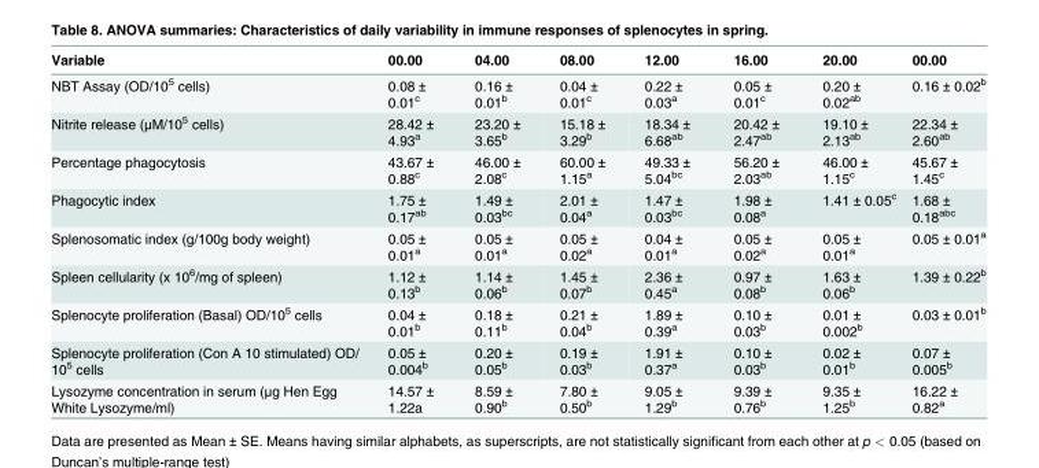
<table><thead><tr><td>Variable</td><td>00.00</td><td>04.00</td><td>08.00</td><td>12.00</td><td>16.00</td><td>20.00</td><td>00.00</td></tr></thead><tbody><tr><td>NBT Assay (OD/10<sup>5</sup> cells)</td><td>0.08 ± 0.01<sup>c</sup></td><td>0.16 ± 0.01<sup>b</sup></td><td>0.04 ± 0.01<sup>c</sup></td><td>0.22 ± 0.03<sup>a</sup></td><td>0.05 ± 0.01<sup>c</sup></td><td>0.20 ± 0.02<sup>ab</sup></td><td>0.16 ± 0.02<sup>b</sup></td></tr><tr><td>Nitrite release (μM/10<sup>5</sup> cells)</td><td>28.42 ± 4.93<sup>a</sup></td><td>23.20 ± 3.65<sup>b</sup></td><td>15.18 ± 3.29<sup>b</sup></td><td>18.34 ± 6.68<sup>ab</sup></td><td>20.42 ± 2.47<sup>ab</sup></td><td>19.10 ± 2.13<sup>ab</sup></td><td>22.34 ± 2.60<sup>ab</sup></td></tr><tr><td>Percentage phagocytosis</td><td>43.67 ± 0.88<sup>c</sup></td><td>46.00 ± 2.08<sup>c</sup></td><td>60.00 ± 1.15<sup>a</sup></td><td>49.33 ± 5.04<sup>bc</sup></td><td>56.20 ± 2.03<sup>ab</sup></td><td>46.00 ± 1.15<sup>c</sup></td><td>45.67 ± 1.45<sup>c</sup></td></tr><tr><td>Phagocytic index</td><td>1.75 ± 0.17<sup>ab</sup></td><td>1.49 ± 0.03<sup>bc</sup></td><td>2.01 ± 0.04<sup>a</sup></td><td>1.47 ± 0.03<sup>bc</sup></td><td>1.98 ± 0.08<sup>a</sup></td><td>1.41 ± 0.05<sup>c</sup></td><td>1.68 ± 0.18<sup>abc</sup></td></tr><tr><td>Splenosomatic index (g/100g body weight)</td><td>0.05 ± 0.01<sup>a</sup></td><td>0.05 ± 0.01<sup>a</sup></td><td>0.05 ± 0.02<sup>a</sup></td><td>0.04 ± 0.01<sup>a</sup></td><td>0.05 ± 0.02<sup>a</sup></td><td>0.05 ± 0.01<sup>a</sup></td><td>0.05 ± 0.01<sup>a</sup></td></tr><tr><td>Spleen cellularity (x 10<sup>6</sup>/mg of spleen)</td><td>1.12 ± 0.13<sup>b</sup></td><td>1.14 ± 0.06<sup>b</sup></td><td>1.45 ± 0.07<sup>b</sup></td><td>2.36 ± 0.45<sup>a</sup></td><td>0.97 ± 0.08<sup>b</sup></td><td>1.63 ± 0.06<sup>b</sup></td><td>1.39 ± 0.22<sup>b</sup></td></tr><tr><td>Splenocyte proliferation (Basal) OD/10<sup>5</sup> cells</td><td>0.04 ± 0.01<sup>b</sup></td><td>0.18 ± 0.11<sup>b</sup></td><td>0.21 ± 0.04<sup>b</sup></td><td>1.89 ± 0.39<sup>a</sup></td><td>0.10 ± 0.03<sup>b</sup></td><td>0.01 ± 0.002<sup>b</sup></td><td>0.03 ± 0.01<sup>b</sup></td></tr><tr><td>Splenocyte proliferation (Con A 10 stimulated) OD/ 10<sup>5</sup> cells</td><td>0.05 ± 0.004<sup>b</sup></td><td>0.20 ± 0.05<sup>b</sup></td><td>0.19 ± 0.03<sup>b</sup></td><td>1.91 ± 0.37<sup>a</sup></td><td>0.10 ± 0.03<sup>b</sup></td><td>0.02 ± 0.01<sup>b</sup></td><td>0.07 ± 0.005<sup>b</sup></td></tr><tr><td>Lysozyme concentration in serum (μg Hen Egg White Lysozyme/ml)</td><td>14.57 ± 1.22a</td><td>8.59 ± 0.90<sup>b</sup></td><td>7.80 ± 0.50<sup>b</sup></td><td>9.05 ± 1.29<sup>b</sup></td><td>9.39 ± 0.76<sup>b</sup></td><td>9.35 ± 1.25<sup>b</sup></td><td>16.22 ± 0.82<sup>a</sup></td></tr></tbody></table>